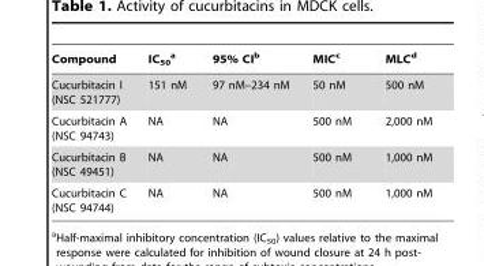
<table><thead><tr><td>Compound</td><td>IC<sub>50</sub> a</td><td>95% CI<sup>b</sup></td><td>MIC<sup>c</sup></td><td>MLC<sup>d</sup></td></tr></thead><tbody><tr><td>Cucurbitacin I (NSC 521777)</td><td>151 nM</td><td>97 nM–234 nM</td><td>50 nM</td><td>500 nM</td></tr><tr><td>Cucurbitacin A (NSC 94743)</td><td>NA</td><td>NA</td><td>500 nM</td><td>2,000 nM</td></tr><tr><td>Cucurbitacin B (NSC 49451)</td><td>NA</td><td>NA</td><td>500 nM</td><td>1,000 nM</td></tr><tr><td>Cucurbitacin C (NSC 94744)</td><td>NA</td><td>NA</td><td>500 nM</td><td>1,000 nM</td></tr></tbody></table>